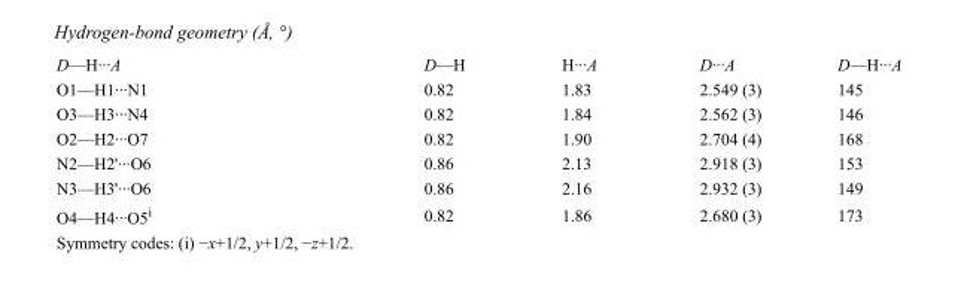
<table><tbody><tr><td>D—H···A</td><td>D—H</td><td>H···A</td><td>D···A</td><td>D—H···A</td></tr><tr><td>O1—H1···N1</td><td>0.82</td><td>1.83</td><td>2.549 (3)</td><td>145</td></tr><tr><td>O3—H3···N4</td><td>0.82</td><td>1.84</td><td>2.562 (3)</td><td>146</td></tr><tr><td>O2—H2···O7</td><td>0.82</td><td>1.90</td><td>2.704 (4)</td><td>168</td></tr><tr><td>N2—H2&#x27;···O6</td><td>0.86</td><td>2.13</td><td>2.918 (3)</td><td>153</td></tr><tr><td>N3—H3&#x27;···O6</td><td>0.86</td><td>2.16</td><td>2.932 (3)</td><td>149</td></tr><tr><td>O4—H4···O5<sup>i</sup></td><td>0.82</td><td>1.86</td><td>2.680 (3)</td><td>173</td></tr></tbody></table>